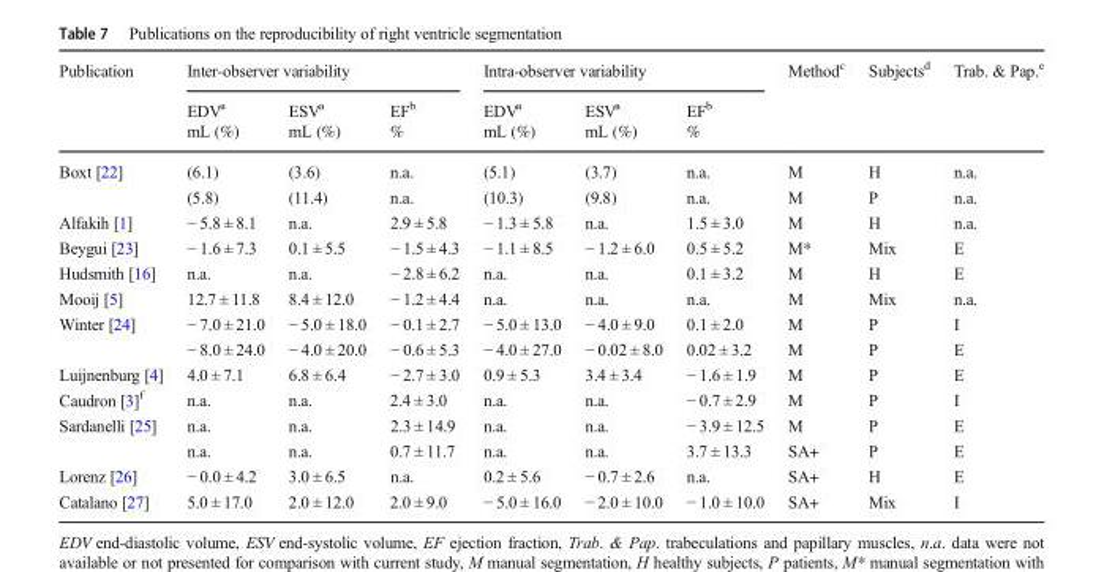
<table><thead><tr><td rowspan="2">Publication</td><td colspan="3">Inter-observer variability</td><td colspan="3">Intra-observer variability</td><td rowspan="2">Method<sup>c</sup></td><td rowspan="2">Subjects<sup>d</sup></td><td rowspan="2">Trab. &amp; Pap.<sup>e</sup></td></tr><tr><td>EDV<sup>a</sup> mL (%)</td><td>ESV<sup>a</sup> mL (%)</td><td>EF<sup>b</sup> %</td><td>EDV<sup>a</sup> mL (%)</td><td>ESV<sup>a</sup> mL (%)</td><td>EF<sup>b</sup> %</td></tr></thead><tbody><tr><td rowspan="2">Boxt [22]</td><td>(6.1)</td><td>(3.6)</td><td>n.a.</td><td>(5.1)</td><td>(3.7)</td><td>n.a.</td><td>M</td><td>H</td><td>n.a.</td></tr><tr><td>(5.8)</td><td>(11.4)</td><td>n.a.</td><td>(10.3)</td><td>(9.8)</td><td>n.a.</td><td>M</td><td>P</td><td>n.a.</td></tr><tr><td>Alfakih [1]</td><td>− 5.8 ± 8.1</td><td>n.a.</td><td>2.9 ± 5.8</td><td>− 1.3 ± 5.8</td><td>n.a.</td><td>1.5 ± 3.0</td><td>M</td><td>H</td><td>n.a.</td></tr><tr><td>Beygui [23]</td><td>− 1.6 ± 7.3</td><td>0.1 ± 5.5</td><td>− 1.5 ± 4.3</td><td>− 1.1 ± 8.5</td><td>− 1.2 ± 6.0</td><td>0.5 ± 5.2</td><td>M*</td><td>Mix</td><td>E</td></tr><tr><td>Hudsmith [16]</td><td>n.a.</td><td>n.a.</td><td>− 2.8 ± 6.2</td><td>n.a.</td><td>n.a.</td><td>0.1 ± 3.2</td><td>M</td><td>H</td><td>E</td></tr><tr><td>Mooij [5]</td><td>12.7 ± 11.8</td><td>8.4 ± 12.0</td><td>− 1.2 ± 4.4</td><td>n.a.</td><td>n.a.</td><td>n.a.</td><td>M</td><td>Mix</td><td>n.a.</td></tr><tr><td rowspan="2">Winter [24]</td><td>− 7.0 ± 21.0</td><td>− 5.0 ± 18.0</td><td>− 0.1 ± 2.7</td><td>− 5.0 ± 13.0</td><td>− 4.0 ± 9.0</td><td>0.1 ± 2.0</td><td>M</td><td>P</td><td>I</td></tr><tr><td>− 8.0 ± 24.0</td><td>− 4.0 ± 20.0</td><td>− 0.6 ± 5.3</td><td>− 4.0 ± 27.0</td><td>− 0.02 ± 8.0</td><td>0.02 ± 3.2</td><td>M</td><td>P</td><td>E</td></tr><tr><td>Luijnenburg [4]</td><td>4.0 ± 7.1</td><td>6.8 ± 6.4</td><td>− 2.7 ± 3.0</td><td>0.9 ± 5.3</td><td>3.4 ± 3.4</td><td>− 1.6 ± 1.9</td><td>M</td><td>P</td><td>E</td></tr><tr><td>Caudron [3]<sup>f</sup></td><td>n.a.</td><td>n.a.</td><td>2.4 ± 3.0</td><td>n.a.</td><td>n.a.</td><td>− 0.7 ± 2.9</td><td>M</td><td>P</td><td>I</td></tr><tr><td rowspan="2">Sardanelli [25]</td><td>n.a.</td><td>n.a.</td><td>2.3 ± 14.9</td><td>n.a.</td><td>n.a.</td><td>− 3.9 ± 12.5</td><td>M</td><td>P</td><td>E</td></tr><tr><td>n.a.</td><td>n.a.</td><td>0.7 ± 11.7</td><td>n.a.</td><td>n.a.</td><td>3.7 ± 13.3</td><td>SA+</td><td>P</td><td>E</td></tr><tr><td>Lorenz [26]</td><td>− 0.0 ± 4.2</td><td>3.0 ± 6.5</td><td>n.a.</td><td>0.2 ± 5.6</td><td>− 0.7 ± 2.6</td><td>n.a.</td><td>SA+</td><td>H</td><td>E</td></tr><tr><td>Catalano [27]</td><td>5.0 ± 17.0</td><td>2.0 ± 12.0</td><td>2.0 ± 9.0</td><td>− 5.0 ± 16.0</td><td>− 2.0 ± 10.0</td><td>− 1.0 ± 10.0</td><td>SA+</td><td>Mix</td><td>I</td></tr></tbody></table>